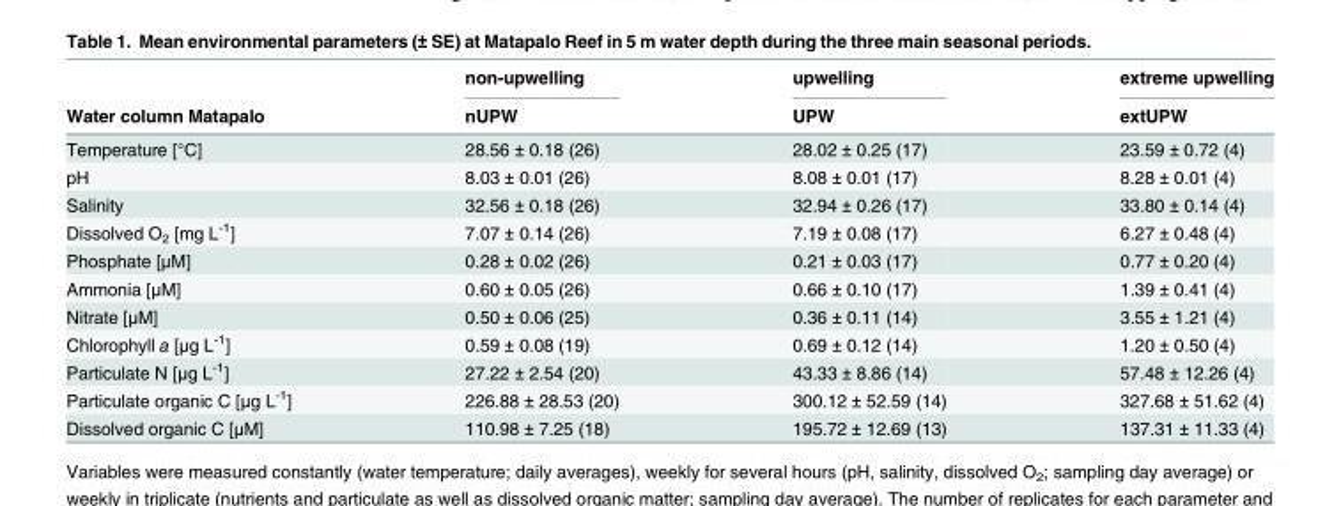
<table><thead><tr><td rowspan="2">Water column Matapalo</td><td rowspan="2">non-upwelling nUPW</td><td rowspan="2">upwelling UPW</td><td rowspan="2">extreme upwelling extUPW</td></tr><tr></tr></thead><tbody><tr><td>Temperature [°C]</td><td>28.56 ± 0.18 (26)</td><td>28.02 ± 0.25 (17)</td><td>23.59 ± 0.72 (4)</td></tr><tr><td>pH</td><td>8.03 ± 0.01 (26)</td><td>8.08 ± 0.01 (17)</td><td>8.28 ± 0.01 (4)</td></tr><tr><td>Salinity</td><td>32.56 ± 0.18 (26)</td><td>32.94 ± 0.26 (17)</td><td>33.80 ± 0.14 (4)</td></tr><tr><td>Dissolved O<sub>2</sub> [mg L<sup>-1</sup>]</td><td>7.07 ± 0.14 (26)</td><td>7.19 ± 0.08 (17)</td><td>6.27 ± 0.48 (4)</td></tr><tr><td>Phosphate [μM]</td><td>0.28 ± 0.02 (26)</td><td>0.21 ± 0.03 (17)</td><td>0.77 ± 0.20 (4)</td></tr><tr><td>Ammonia [μM]</td><td>0.60 ± 0.05 (26)</td><td>0.66 ± 0.10 (17)</td><td>1.39 ± 0.41 (4)</td></tr><tr><td>Nitrate [μM]</td><td>0.50 ± 0.06 (25)</td><td>0.36 ± 0.11 (14)</td><td>3.55 ± 1.21 (4)</td></tr><tr><td>Chlorophyll a [μg L<sup>-1</sup>]</td><td>0.59 ± 0.08 (19)</td><td>0.69 ± 0.12 (14)</td><td>1.20 ± 0.50 (4)</td></tr><tr><td>Particulate N [μg L<sup>-1</sup>]</td><td>27.22 ± 2.54 (20)</td><td>43.33 ± 8.86 (14)</td><td>57.48 ± 12.26 (4)</td></tr><tr><td>Particulate organic C [μg L<sup>-1</sup>]</td><td>226.88 ± 28.53 (20)</td><td>300.12 ± 52.59 (14)</td><td>327.68 ± 51.62 (4)</td></tr><tr><td>Dissolved organic C [μM]</td><td>110.98 ± 7.25 (18)</td><td>195.72 ± 12.69 (13)</td><td>137.31 ± 11.33 (4)</td></tr></tbody></table>